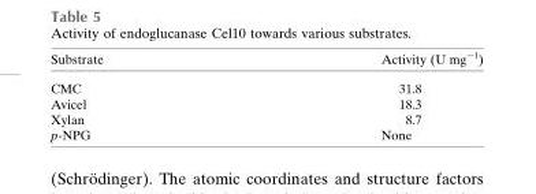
<table><thead><tr><td>Substrate</td><td>Activity (U mg<sup>−1</sup>)</td></tr></thead><tbody><tr><td>CMC</td><td>31.8</td></tr><tr><td>Avicel</td><td>18.3</td></tr><tr><td>Xylan</td><td>8.7</td></tr><tr><td>p-NPG</td><td>None</td></tr></tbody></table>